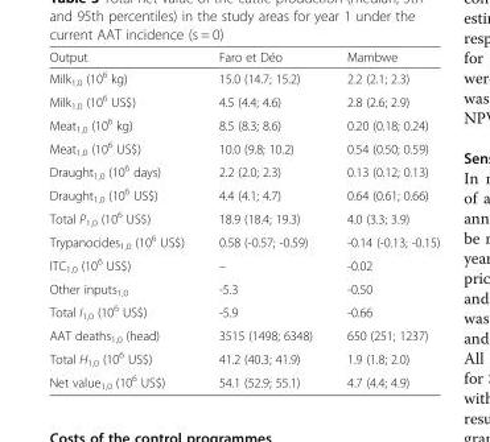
<table><thead><tr><td>Output</td><td>Faro et Déo</td><td>Mambwe</td></tr></thead><tbody><tr><td>Milk<sub>1,0</sub> (10<sup>6</sup> kg)</td><td>15.0 (14.7; 15.2)</td><td>2.2 (2.1; 2.3)</td></tr><tr><td>Milk<sub>1,0</sub> (10<sup>6</sup> US$)</td><td>4.5 (4.4; 4.6)</td><td>2.8 (2.6; 2.9)</td></tr><tr><td>Meat<sub>1,0</sub> (10<sup>6</sup> kg)</td><td>8.5 (8.3; 8.6)</td><td>0.20 (0.18; 0.24)</td></tr><tr><td>Meat<sub>1,0</sub> (10<sup>6</sup> US$)</td><td>10.0 (9.8; 10.2)</td><td>0.54 (0.50; 0.59)</td></tr><tr><td>Draught<sub>1,0</sub> (10<sup>6</sup> days)</td><td>2.2 (2.0; 2.3)</td><td>0.13 (0.12; 0.13)</td></tr><tr><td>Draught<sub>1,0</sub> (10<sup>6</sup> US$)</td><td>4.4 (4.1; 4.7)</td><td>0.64 (0.61; 0.66)</td></tr><tr><td>Total P<sub>1,0</sub> (10<sup>6</sup> US$)</td><td>18.9 (18.4; 19.3)</td><td>4.0 (3.3; 3.9)</td></tr><tr><td>Trypanocides<sub>1,0</sub> (10<sup>6</sup> US$)</td><td>0.58 (-0.57; -0.59)</td><td>-0.14 (-0.13; -0.15)</td></tr><tr><td>ITC<sub>1,0</sub> (10<sup>6</sup> US$)</td><td>–</td><td>-0.02</td></tr><tr><td>Other inputs<sub>1,0</sub></td><td>-5.3</td><td>-0.50</td></tr><tr><td>Total I<sub>1,0</sub> (10<sup>6</sup> US$)</td><td>-5.9</td><td>-0.66</td></tr><tr><td>AAT deaths<sub>1,0</sub> (head)</td><td>3515 (1498; 6348)</td><td>650 (251; 1237)</td></tr><tr><td>Total H<sub>1,0</sub> (10<sup>6</sup> US$)</td><td>41.2 (40.3; 41.9)</td><td>1.9 (1.8; 2.0)</td></tr><tr><td>Net value<sub>1,0</sub> (10<sup>6</sup> US$)</td><td>54.1 (52.9; 55.1)</td><td>4.7 (4.4; 4.9)</td></tr></tbody></table>